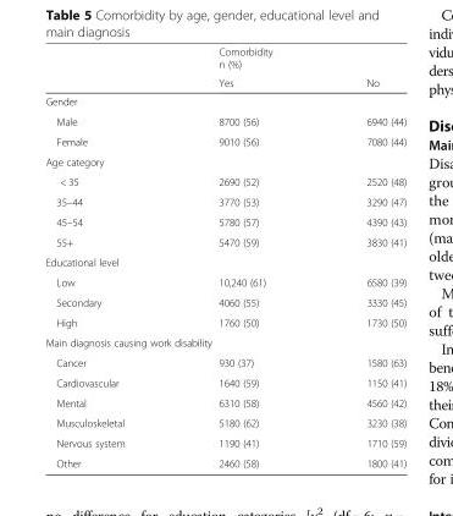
<table><thead><tr><td rowspan="2"></td><td rowspan="2">Comorbidity n (%) Yes</td><td rowspan="2">No</td></tr><tr></tr></thead><tbody><tr><td colspan="3">Gender</td></tr><tr><td>Male</td><td>8700 (56)</td><td>6940 (44)</td></tr><tr><td>Female</td><td>9010 (56)</td><td>7080 (44)</td></tr><tr><td colspan="3">Age category</td></tr><tr><td>&lt; 35</td><td>2690 (52)</td><td>2520 (48)</td></tr><tr><td>35–44</td><td>3770 (53)</td><td>3290 (47)</td></tr><tr><td>45–54</td><td>5780 (57)</td><td>4390 (43)</td></tr><tr><td>55+</td><td>5470 (59)</td><td>3830 (41)</td></tr><tr><td colspan="3">Educational level</td></tr><tr><td>Low</td><td>10,240 (61)</td><td>6580 (39)</td></tr><tr><td>Secondary</td><td>4060 (55)</td><td>3330 (45)</td></tr><tr><td>High</td><td>1760 (50)</td><td>1730 (50)</td></tr><tr><td colspan="3">Main diagnosis causing work disability</td></tr><tr><td>Cancer</td><td>930 (37)</td><td>1580 (63)</td></tr><tr><td>Cardiovascular</td><td>1640 (59)</td><td>1150 (41)</td></tr><tr><td>Mental</td><td>6310 (58)</td><td>4560 (42)</td></tr><tr><td>Musculoskeletal</td><td>5180 (62)</td><td>3230 (38)</td></tr><tr><td>Nervous system</td><td>1190 (41)</td><td>1710 (59)</td></tr><tr><td>Other</td><td>2460 (58)</td><td>1800 (41)</td></tr></tbody></table>